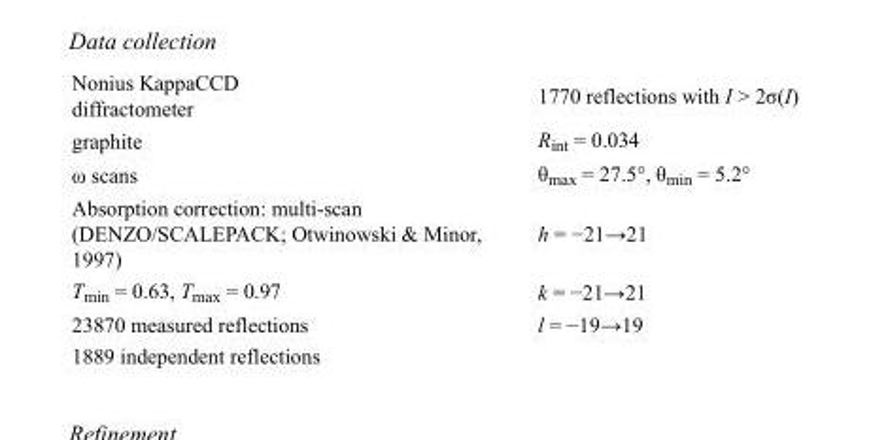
<table><tbody><tr><td>Nonius KappaCCD diffractometer</td><td>1770 reflections with I &gt; 2σ(I)</td></tr><tr><td>graphite</td><td>R<sub>int</sub> = 0.034</td></tr><tr><td>ω scans</td><td>θ<sub>max</sub> = 27.5°, θ<sub>min</sub> = 5.2°</td></tr><tr><td>Absorption correction: multi-scan (DENZO/SCALEPACK; Otwinowski &amp; Minor, 1997)</td><td>h = −21→21</td></tr><tr><td>T<sub>min</sub> = 0.63, T<sub>max</sub> = 0.97</td><td>k = −21→21</td></tr><tr><td>23870 measured reflections</td><td>l = −19→19</td></tr><tr><td>1889 independent reflections</td><td></td></tr></tbody></table>